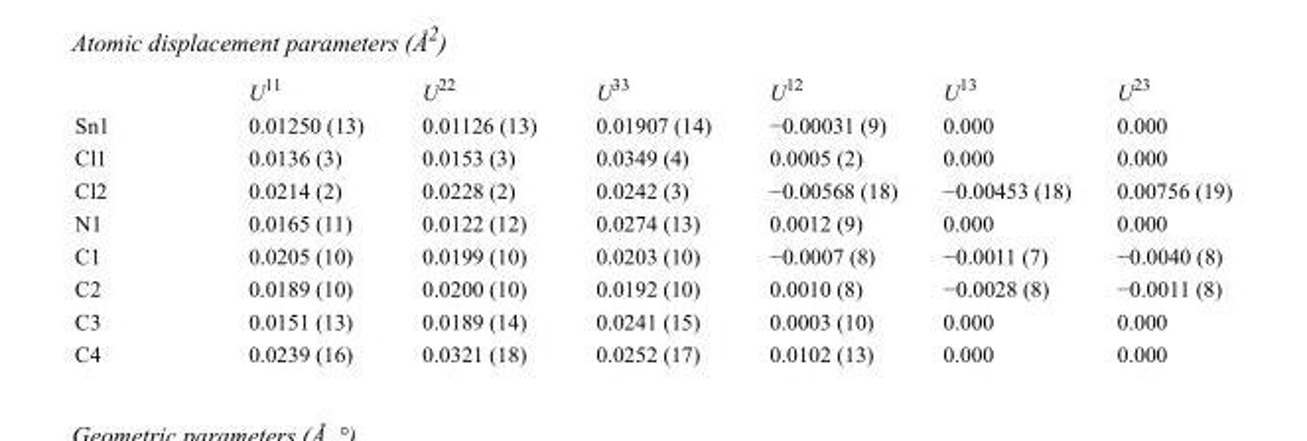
<table><thead><tr><td></td><td>U<sup>11</sup></td><td>U<sup>22</sup></td><td>U<sup>33</sup></td><td>U<sup>12</sup></td><td>U<sup>13</sup></td><td>U<sup>23</sup></td></tr></thead><tbody><tr><td>Sn1</td><td>0.01250 (13)</td><td>0.01126 (13)</td><td>0.01907 (14)</td><td>−0.00031 (9)</td><td>0.000</td><td>0.000</td></tr><tr><td>Cl1</td><td>0.0136 (3)</td><td>0.0153 (3)</td><td>0.0349 (4)</td><td>0.0005 (2)</td><td>0.000</td><td>0.000</td></tr><tr><td>Cl2</td><td>0.0214 (2)</td><td>0.0228 (2)</td><td>0.0242 (3)</td><td>−0.00568 (18)</td><td>−0.00453 (18)</td><td>0.00756 (19)</td></tr><tr><td>N1</td><td>0.0165 (11)</td><td>0.0122 (12)</td><td>0.0274 (13)</td><td>0.0012 (9)</td><td>0.000</td><td>0.000</td></tr><tr><td>C1</td><td>0.0205 (10)</td><td>0.0199 (10)</td><td>0.0203 (10)</td><td>−0.0007 (8)</td><td>−0.0011 (7)</td><td>−0.0040 (8)</td></tr><tr><td>C2</td><td>0.0189 (10)</td><td>0.0200 (10)</td><td>0.0192 (10)</td><td>0.0010 (8)</td><td>−0.0028 (8)</td><td>−0.0011 (8)</td></tr><tr><td>C3</td><td>0.0151 (13)</td><td>0.0189 (14)</td><td>0.0241 (15)</td><td>0.0003 (10)</td><td>0.000</td><td>0.000</td></tr><tr><td>C4</td><td>0.0239 (16)</td><td>0.0321 (18)</td><td>0.0252 (17)</td><td>0.0102 (13)</td><td>0.000</td><td>0.000</td></tr></tbody></table>